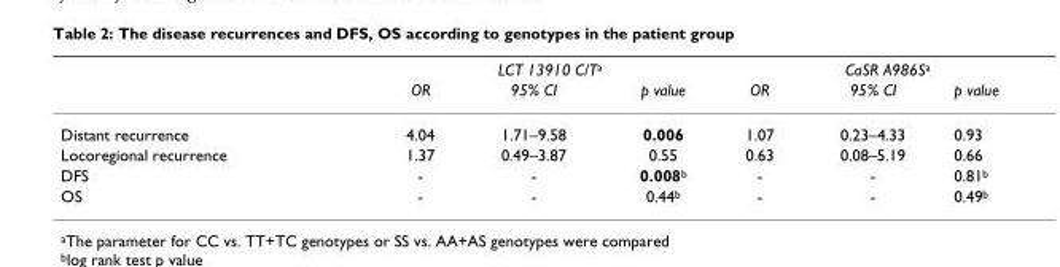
<table><thead><tr><td rowspan="2"></td><td colspan="3">LCT 13910 C/T<sup>a</sup></td><td colspan="3">CaSR A986S<sup>a</sup></td></tr><tr><td>OR</td><td>95% CI</td><td>p value</td><td>OR</td><td>95% CI</td><td>p value</td></tr></thead><tbody><tr><td>Distant recurrence</td><td>4.04</td><td>1.71–9.58</td><td>0.006</td><td>1.07</td><td>0.23–4.33</td><td>0.93</td></tr><tr><td>Locoregional recurrence</td><td>1.37</td><td>0.49–3.87</td><td>0.55</td><td>0.63</td><td>0.08–5.19</td><td>0.66</td></tr><tr><td>DFS</td><td>-</td><td>-</td><td>0.008<sup>b</sup></td><td>-</td><td>-</td><td>0.81<sup>b</sup></td></tr><tr><td>OS</td><td>-</td><td>-</td><td>0.44<sup>b</sup></td><td>-</td><td>-</td><td>0.49<sup>b</sup></td></tr></tbody></table>